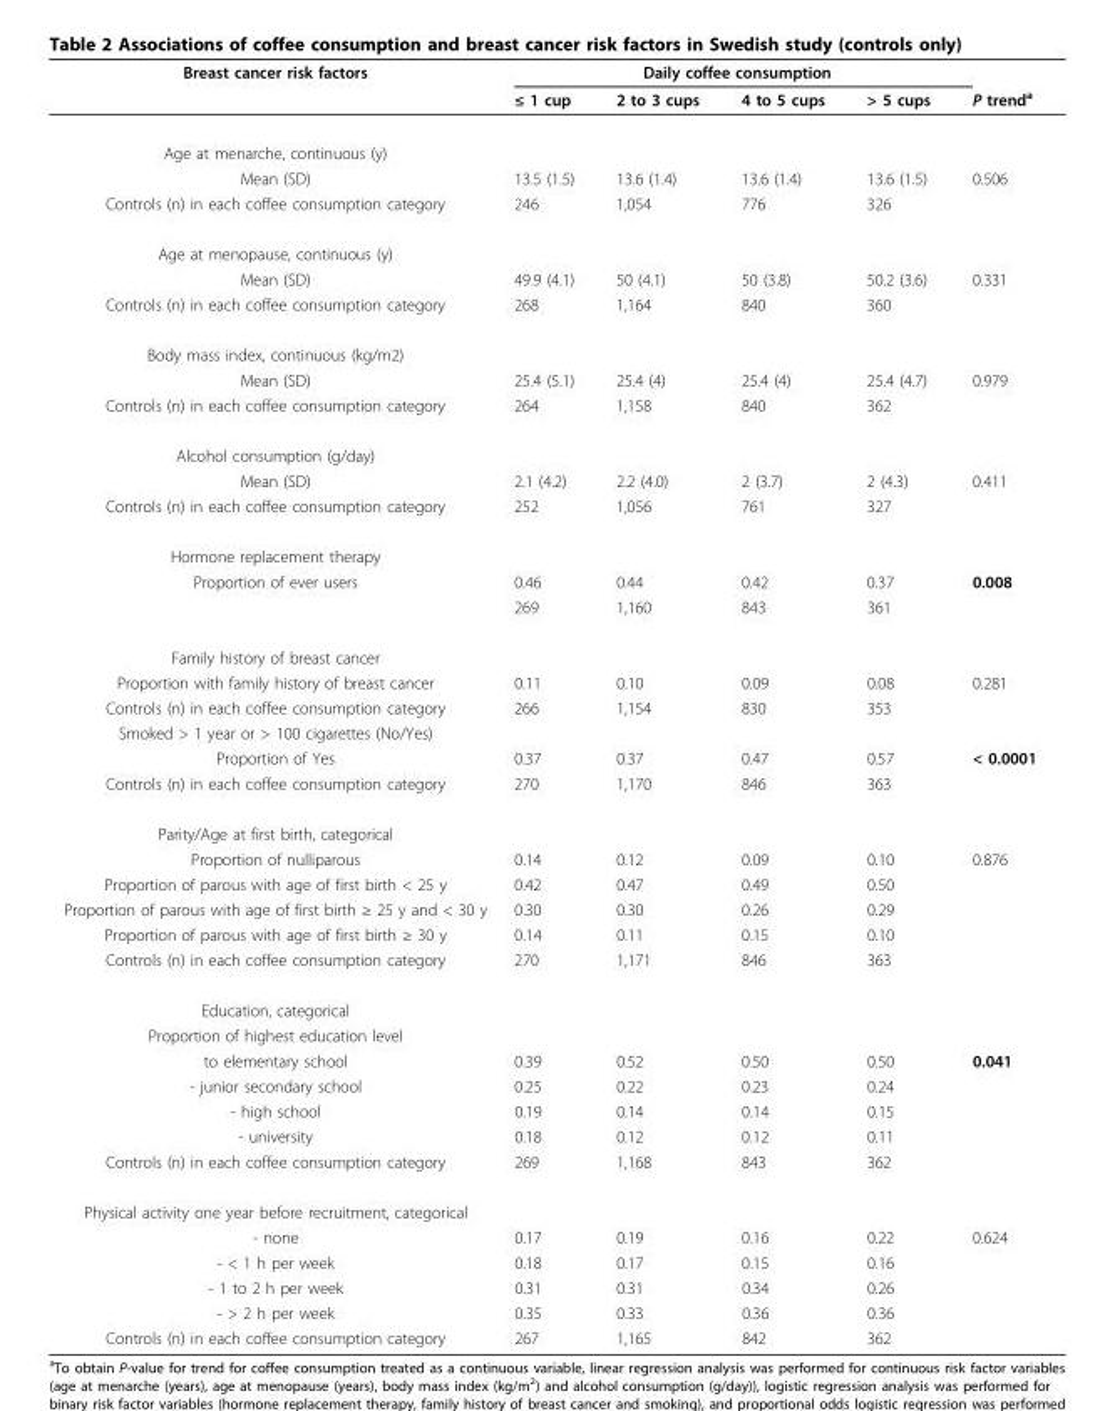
<table><thead><tr><td rowspan="2">Breast cancer risk factors</td><td colspan="4">Daily coffee consumption</td><td rowspan="2">P trend<sup>a</sup></td></tr><tr><td>≤ 1 cup</td><td>2 to 3 cups</td><td>4 to 5 cups</td><td>&gt; 5 cups</td></tr></thead><tbody><tr><td colspan="6">Age at menarche, continuous (y)</td></tr><tr><td>Mean (SD)</td><td>13.5 (1.5)</td><td>13.6 (1.4)</td><td>13.6 (1.4)</td><td>13.6 (1.5)</td><td>0.506</td></tr><tr><td>Controls (n) in each coffee consumption category</td><td>246</td><td>1,054</td><td>776</td><td>326</td><td></td></tr><tr><td colspan="6">Age at menopause, continuous (y)</td></tr><tr><td>Mean (SD)</td><td>49.9 (4.1)</td><td>50 (4.1)</td><td>50 (3.8)</td><td>50.2 (3.6)</td><td>0.331</td></tr><tr><td>Controls (n) in each coffee consumption category</td><td>268</td><td>1,164</td><td>840</td><td>360</td><td></td></tr><tr><td colspan="6">Body mass index, continuous (kg/m2)</td></tr><tr><td>Mean (SD)</td><td>25.4 (5.1)</td><td>25.4 (4)</td><td>25.4 (4)</td><td>25.4 (4.7)</td><td>0.979</td></tr><tr><td>Controls (n) in each coffee consumption category</td><td>264</td><td>1,158</td><td>840</td><td>362</td><td></td></tr><tr><td colspan="6">Alcohol consumption (g/day)</td></tr><tr><td>Mean (SD)</td><td>2.1 (4.2)</td><td>2.2 (4.0)</td><td>2 (3.7)</td><td>2 (4.3)</td><td>0.411</td></tr><tr><td>Controls (n) in each coffee consumption category</td><td>252</td><td>1,056</td><td>761</td><td>327</td><td></td></tr><tr><td colspan="6">Hormone replacement therapy</td></tr><tr><td rowspan="2">Proportion of ever users</td><td>0.46</td><td>0.44</td><td>0.42</td><td>0.37</td><td>0.008</td></tr><tr><td>269</td><td>1,160</td><td>843</td><td>361</td><td></td></tr><tr><td colspan="6">Family history of breast cancer</td></tr><tr><td>Proportion with family history of breast cancer</td><td>0.11</td><td>0.10</td><td>0.09</td><td>0.08</td><td>0.281</td></tr><tr><td>Controls (n) in each coffee consumption category</td><td>266</td><td>1,154</td><td>830</td><td>353</td><td></td></tr><tr><td colspan="6">Smoked &gt; 1 year or &gt; 100 cigarettes (No/Yes)</td></tr><tr><td>Proportion of Yes</td><td>0.37</td><td>0.37</td><td>0.47</td><td>0.57</td><td>&lt; 0.0001</td></tr><tr><td>Controls (n) in each coffee consumption category</td><td>270</td><td>1,170</td><td>846</td><td>363</td><td></td></tr><tr><td colspan="6">Parity/Age at first birth, categorical</td></tr><tr><td>Proportion of nulliparous</td><td>0.14</td><td>0.12</td><td>0.09</td><td>0.10</td><td>0.876</td></tr><tr><td>Proportion of parous with age of first birth &lt; 25 y</td><td>0.42</td><td>0.47</td><td>0.49</td><td>0.50</td><td></td></tr><tr><td>Proportion of parous with age of first birth ≥ 25 y and &lt; 30 y</td><td>0.30</td><td>0.30</td><td>0.26</td><td>0.29</td><td></td></tr><tr><td>Proportion of parous with age of first birth ≥ 30 y</td><td>0.14</td><td>0.11</td><td>0.15</td><td>0.10</td><td></td></tr><tr><td>Controls (n) in each coffee consumption category</td><td>270</td><td>1,171</td><td>846</td><td>363</td><td></td></tr><tr><td colspan="6">Education, categorical</td></tr><tr><td colspan="6">Proportion of highest education level</td></tr><tr><td>to elementary school</td><td>0.39</td><td>0.52</td><td>0.50</td><td>0.50</td><td>0.041</td></tr><tr><td>- junior secondary school</td><td>0.25</td><td>0.22</td><td>0.23</td><td>0.24</td><td></td></tr><tr><td>- high school</td><td>0.19</td><td>0.14</td><td>0.14</td><td>0.15</td><td></td></tr><tr><td>- university</td><td>0.18</td><td>0.12</td><td>0.12</td><td>0.11</td><td></td></tr><tr><td>Controls (n) in each coffee consumption category</td><td>269</td><td>1,168</td><td>843</td><td>362</td><td></td></tr><tr><td colspan="6">Physical activity one year before recruitment, categorical</td></tr><tr><td>- none</td><td>0.17</td><td>0.19</td><td>0.16</td><td>0.22</td><td>0.624</td></tr><tr><td>- &lt; 1 h per week</td><td>0.18</td><td>0.17</td><td>0.15</td><td>0.16</td><td></td></tr><tr><td>- 1 to 2 h per week</td><td>0.31</td><td>0.31</td><td>0.34</td><td>0.26</td><td></td></tr><tr><td>- &gt; 2 h per week</td><td>0.35</td><td>0.33</td><td>0.36</td><td>0.36</td><td></td></tr><tr><td>Controls (n) in each coffee consumption category</td><td>267</td><td>1,165</td><td>842</td><td>362</td><td></td></tr></tbody></table>